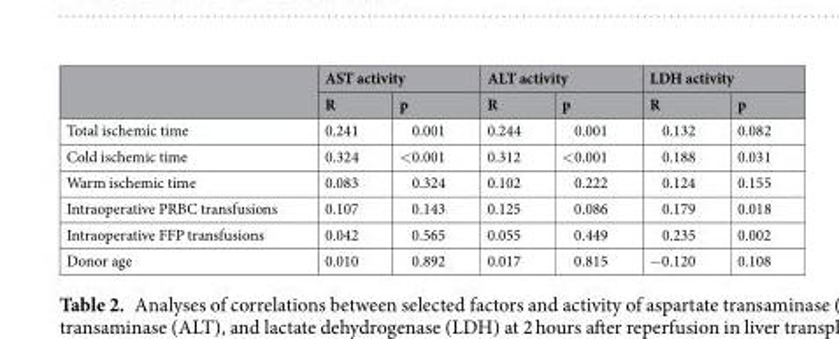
<table><thead><tr><td rowspan="2"></td><td colspan="2">AST activity</td><td colspan="2">ALT activity</td><td colspan="2">LDH activity</td></tr><tr><td>R</td><td>p</td><td>R</td><td>p</td><td>R</td><td>p</td></tr></thead><tbody><tr><td>Total ischemic time</td><td>0.241</td><td>0.001</td><td>0.244</td><td>0.001</td><td>0.132</td><td>0.082</td></tr><tr><td>Cold ischemic time</td><td>0.324</td><td>&lt;0.001</td><td>0.312</td><td>&lt;0.001</td><td>0.188</td><td>0.031</td></tr><tr><td>Warm ischemic time</td><td>0.083</td><td>0.324</td><td>0.102</td><td>0.222</td><td>0.124</td><td>0.155</td></tr><tr><td>Intraoperative PRBC transfusions</td><td>0.107</td><td>0.143</td><td>0.125</td><td>0.086</td><td>0.179</td><td>0.018</td></tr><tr><td>Intraoperative FFP transfusions</td><td>0.042</td><td>0.565</td><td>0.055</td><td>0.449</td><td>0.235</td><td>0.002</td></tr><tr><td>Donor age</td><td>0.010</td><td>0.892</td><td>0.017</td><td>0.815</td><td>−0.120</td><td>0.108</td></tr></tbody></table>